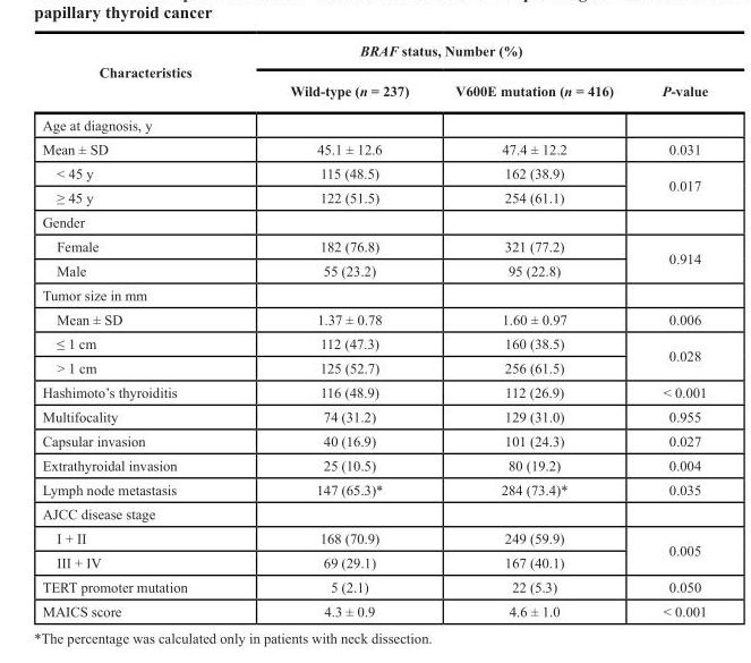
<table><thead><tr><td rowspan="2">Characteristics</td><td colspan="2">BRAF status, Number (%)</td><td rowspan="2">P-value</td></tr><tr><td>Wild-type (n = 237)</td><td>V600E mutation (n = 416)</td></tr></thead><tbody><tr><td colspan="4">Age at diagnosis, y</td></tr><tr><td>Mean ± SD</td><td>45.1 ± 12.6</td><td>47.4 ± 12.2</td><td>0.031</td></tr><tr><td>&lt; 45 y</td><td>115 (48.5)</td><td>162 (38.9)</td><td rowspan="2">0.017</td></tr><tr><td>≥ 45 y</td><td>122 (51.5)</td><td>254 (61.1)</td></tr><tr><td colspan="4">Gender</td></tr><tr><td>Female</td><td>182 (76.8)</td><td>321 (77.2)</td><td rowspan="2">0.914</td></tr><tr><td>Male</td><td>55 (23.2)</td><td>95 (22.8)</td></tr><tr><td colspan="4">Tumor size in mm</td></tr><tr><td>Mean ± SD</td><td>1.37 ± 0.78</td><td>1.60 ± 0.97</td><td>0.006</td></tr><tr><td>≤ 1 cm</td><td>112 (47.3)</td><td>160 (38.5)</td><td rowspan="2">0.028</td></tr><tr><td>&gt; 1 cm</td><td>125 (52.7)</td><td>256 (61.5)</td></tr><tr><td>Hashimoto’s thyroiditis</td><td>116 (48.9)</td><td>112 (26.9)</td><td>&lt; 0.001</td></tr><tr><td>Multifocality</td><td>74 (31.2)</td><td>129 (31.0)</td><td>0.955</td></tr><tr><td>Capsular invasion</td><td>40 (16.9)</td><td>101 (24.3)</td><td>0.027</td></tr><tr><td>Extrathyroidal invasion</td><td>25 (10.5)</td><td>80 (19.2)</td><td>0.004</td></tr><tr><td>Lymph node metastasis</td><td>147 (65.3)*</td><td>284 (73.4)*</td><td>0.035</td></tr><tr><td colspan="4">AJCC disease stage</td></tr><tr><td>I + II</td><td>168 (70.9)</td><td>249 (59.9)</td><td rowspan="2">0.005</td></tr><tr><td>III + IV</td><td>69 (29.1)</td><td>167 (40.1)</td></tr><tr><td>TERT promoter mutation</td><td>5 (2.1)</td><td>22 (5.3)</td><td>0.050</td></tr><tr><td>MAICS score</td><td>4.3 ± 0.9</td><td>4.6 ± 1.0</td><td>&lt; 0.001</td></tr></tbody></table>